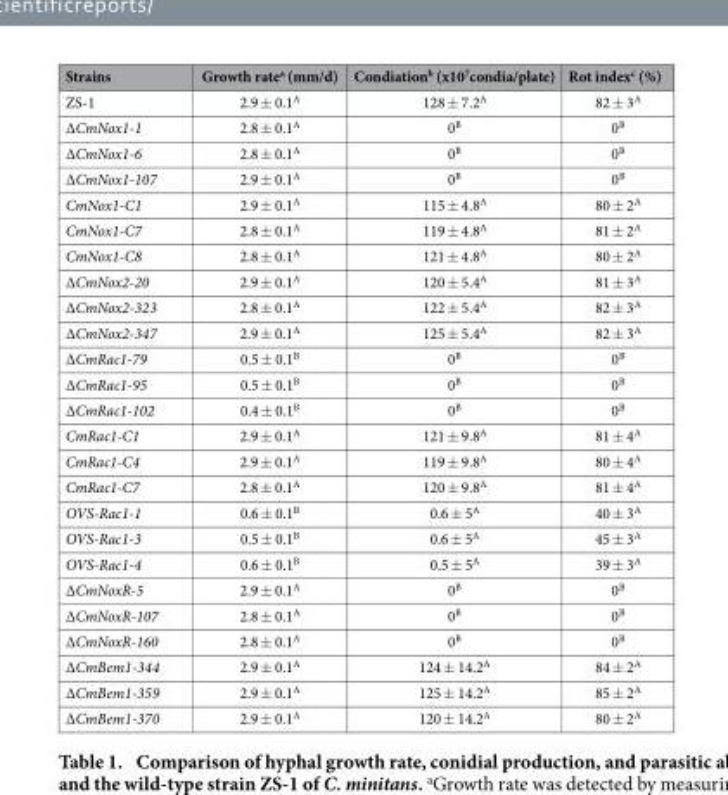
<table><thead><tr><td>Strains</td><td>Growth rate<sup>a</sup> (mm/d)</td><td>Condiation<sup>b</sup> (x10<sup>7</sup>condia/plate)</td><td>Rot index<sup>c</sup> (%)</td></tr></thead><tbody><tr><td>ZS-1</td><td>2.9 ± 0.1<sup>A</sup></td><td>128 ± 7.2<sup>A</sup></td><td>82 ± 3<sup>A</sup></td></tr><tr><td>ΔCmNox1-1</td><td>2.8 ± 0.1<sup>A</sup></td><td>0<sup>B</sup></td><td>0<sup>B</sup></td></tr><tr><td>ΔCmNox1-6</td><td>2.8 ± 0.1<sup>A</sup></td><td>0<sup>B</sup></td><td>0<sup>B</sup></td></tr><tr><td>ΔCmNox1-107</td><td>2.9 ± 0.1<sup>A</sup></td><td>0<sup>B</sup></td><td>0<sup>B</sup></td></tr><tr><td>CmNox1-C1</td><td>2.9 ± 0.1<sup>A</sup></td><td>115 ± 4.8<sup>A</sup></td><td>80 ± 2<sup>A</sup></td></tr><tr><td>CmNox1-C7</td><td>2.8 ± 0.1<sup>A</sup></td><td>119 ± 4.8<sup>A</sup></td><td>81 ± 2<sup>A</sup></td></tr><tr><td>CmNox1-C8</td><td>2.8 ± 0.1<sup>A</sup></td><td>121 ± 4.8<sup>A</sup></td><td>80 ± 2<sup>A</sup></td></tr><tr><td>ΔCmNox2-20</td><td>2.9 ± 0.1<sup>A</sup></td><td>120 ± 5.4<sup>A</sup></td><td>81 ± 3<sup>A</sup></td></tr><tr><td>ΔCmNox2-323</td><td>2.8 ± 0.1<sup>A</sup></td><td>122 ± 5.4<sup>A</sup></td><td>82 ± 3<sup>A</sup></td></tr><tr><td>ΔCmNox2-347</td><td>2.9 ± 0.1<sup>A</sup></td><td>125 ± 5.4<sup>A</sup></td><td>82 ± 3<sup>A</sup></td></tr><tr><td>ΔCmRac1-79</td><td>0.5 ± 0.1<sup>B</sup></td><td>0<sup>B</sup></td><td>0<sup>B</sup></td></tr><tr><td>ΔCmRac1-95</td><td>0.5 ± 0.1<sup>B</sup></td><td>0<sup>B</sup></td><td>0<sup>B</sup></td></tr><tr><td>ΔCmRac1-102</td><td>0.4 ± 0.1<sup>B</sup></td><td>0<sup>B</sup></td><td>0<sup>B</sup></td></tr><tr><td>CmRac1-C1</td><td>2.9 ± 0.1<sup>A</sup></td><td>121 ± 9.8<sup>A</sup></td><td>81 ± 4<sup>A</sup></td></tr><tr><td>CmRac1-C4</td><td>2.9 ± 0.1<sup>A</sup></td><td>119 ± 9.8<sup>A</sup></td><td>80 ± 4<sup>A</sup></td></tr><tr><td>CmRac1-C7</td><td>2.8 ± 0.1<sup>A</sup></td><td>120 ± 9.8<sup>A</sup></td><td>81 ± 4<sup>A</sup></td></tr><tr><td>OVS-Rac1-1</td><td>0.6 ± 0.1<sup>B</sup></td><td>0.6 ± 5<sup>A</sup></td><td>40 ± 3<sup>A</sup></td></tr><tr><td>OVS-Rac1-3</td><td>0.5 ± 0.1<sup>B</sup></td><td>0.6 ± 5<sup>A</sup></td><td>45 ± 3<sup>A</sup></td></tr><tr><td>OVS-Rac1-4</td><td>0.6 ± 0.1<sup>B</sup></td><td>0.5 ± 5<sup>A</sup></td><td>39 ± 3<sup>A</sup></td></tr><tr><td>ΔCmNoxR-5</td><td>2.9 ± 0.1<sup>A</sup></td><td>0<sup>B</sup></td><td>0<sup>B</sup></td></tr><tr><td>ΔCmNoxR-107</td><td>2.8 ± 0.1<sup>A</sup></td><td>0<sup>B</sup></td><td>0<sup>B</sup></td></tr><tr><td>ΔCmNoxR-160</td><td>2.8 ± 0.1<sup>A</sup></td><td>0<sup>B</sup></td><td>0<sup>B</sup></td></tr><tr><td>ΔCmBem1-344</td><td>2.9 ± 0.1<sup>A</sup></td><td>124 ± 14.2<sup>A</sup></td><td>84 ± 2<sup>A</sup></td></tr><tr><td>ΔCmBem1-359</td><td>2.9 ± 0.1<sup>A</sup></td><td>125 ± 14.2<sup>A</sup></td><td>85 ± 2<sup>A</sup></td></tr><tr><td>ΔCmBem1-370</td><td>2.9 ± 0.1<sup>A</sup></td><td>120 ± 14.2<sup>A</sup></td><td>80 ± 2<sup>A</sup></td></tr></tbody></table>